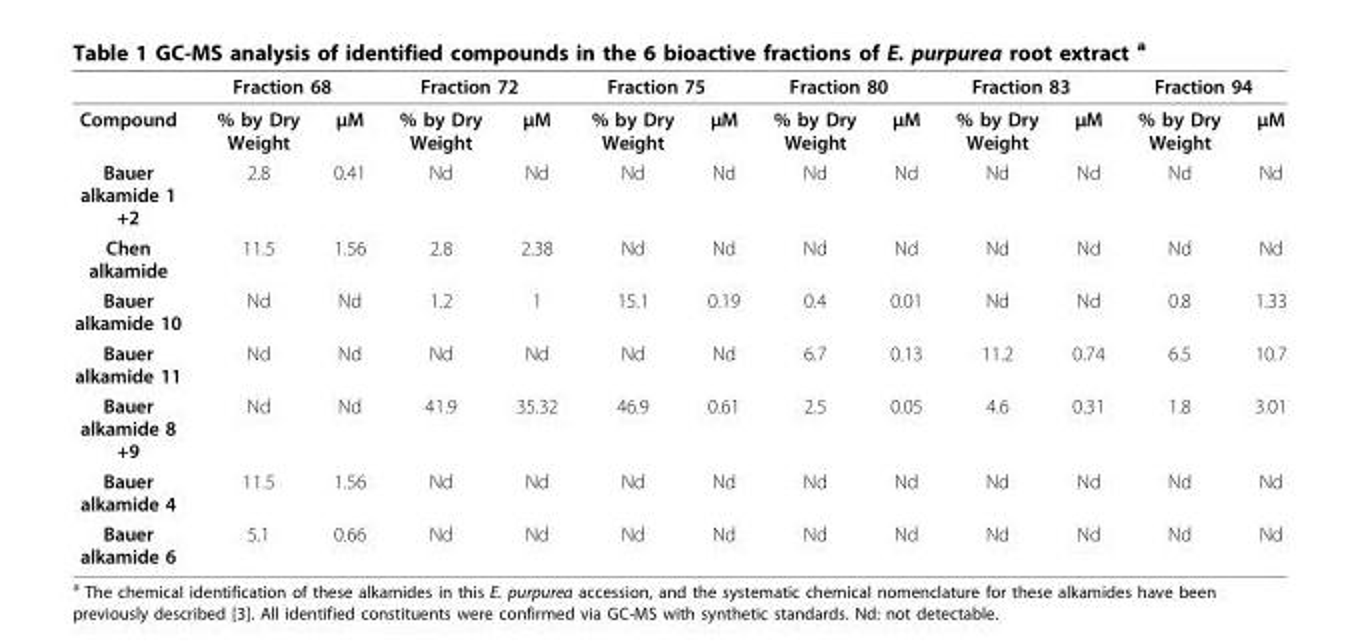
<table><thead><tr><td rowspan="2">Compound</td><td colspan="2">Fraction 68</td><td colspan="2">Fraction 72</td><td colspan="2">Fraction 75</td><td colspan="2">Fraction 80</td><td colspan="2">Fraction 83</td><td colspan="2">Fraction 94</td></tr><tr><td>% by Dry Weight</td><td>μM</td><td>% by Dry Weight</td><td>μM</td><td>% by Dry Weight</td><td>μM</td><td>% by Dry Weight</td><td>μM</td><td>% by Dry Weight</td><td>μM</td><td>% by Dry Weight</td><td>μM</td></tr></thead><tbody><tr><td>Bauer alkamide 1 +2</td><td>2.8</td><td>0.41</td><td>Nd</td><td>Nd</td><td>Nd</td><td>Nd</td><td>Nd</td><td>Nd</td><td>Nd</td><td>Nd</td><td>Nd</td><td>Nd</td></tr><tr><td>Chen alkamide</td><td>11.5</td><td>1.56</td><td>2.8</td><td>2.38</td><td>Nd</td><td>Nd</td><td>Nd</td><td>Nd</td><td>Nd</td><td>Nd</td><td>Nd</td><td>Nd</td></tr><tr><td>Bauer alkamide 10</td><td>Nd</td><td>Nd</td><td>1.2</td><td>1</td><td>15.1</td><td>0.19</td><td>0.4</td><td>0.01</td><td>Nd</td><td>Nd</td><td>0.8</td><td>1.33</td></tr><tr><td>Bauer alkamide 11</td><td>Nd</td><td>Nd</td><td>Nd</td><td>Nd</td><td>Nd</td><td>Nd</td><td>6.7</td><td>0.13</td><td>11.2</td><td>0.74</td><td>6.5</td><td>10.7</td></tr><tr><td>Bauer alkamide 8 +9</td><td>Nd</td><td>Nd</td><td>41.9</td><td>35.32</td><td>46.9</td><td>0.61</td><td>2.5</td><td>0.05</td><td>4.6</td><td>0.31</td><td>1.8</td><td>3.01</td></tr><tr><td>Bauer alkamide 4</td><td>11.5</td><td>1.56</td><td>Nd</td><td>Nd</td><td>Nd</td><td>Nd</td><td>Nd</td><td>Nd</td><td>Nd</td><td>Nd</td><td>Nd</td><td>Nd</td></tr><tr><td>Bauer alkamide 6</td><td>5.1</td><td>0.66</td><td>Nd</td><td>Nd</td><td>Nd</td><td>Nd</td><td>Nd</td><td>Nd</td><td>Nd</td><td>Nd</td><td>Nd</td><td>Nd</td></tr></tbody></table>